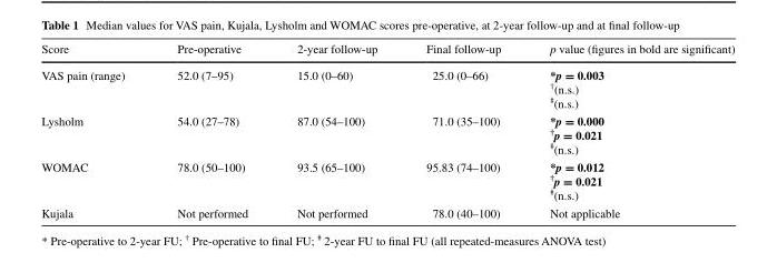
<table><thead><tr><td>Score</td><td>Pre-operative</td><td>2-year follow-up</td><td>Final follow-up</td><td>p value (figures in bold are significant)</td></tr></thead><tbody><tr><td>VAS pain (range)</td><td>52.0 (7–95)</td><td>15.0 (0–60)</td><td>25.0 (0–66)</td><td>*p = 0.003 <sup>†</sup>(n.s.) <sup>ǂ</sup>(n.s.)</td></tr><tr><td>Lysholm</td><td>54.0 (27–78)</td><td>87.0 (54–100)</td><td>71.0 (35–100)</td><td>*p = 0.000 <sup>†</sup>p = 0.021 <sup>ǂ</sup>(n.s.)</td></tr><tr><td>WOMAC</td><td>78.0 (50–100)</td><td>93.5 (65–100)</td><td>95.83 (74–100)</td><td>*p = 0.012 <sup>†</sup>p = 0.021 <sup>ǂ</sup>(n.s.)</td></tr><tr><td>Kujala</td><td>Not performed</td><td>Not performed</td><td>78.0 (40–100)</td><td>Not applicable</td></tr></tbody></table>